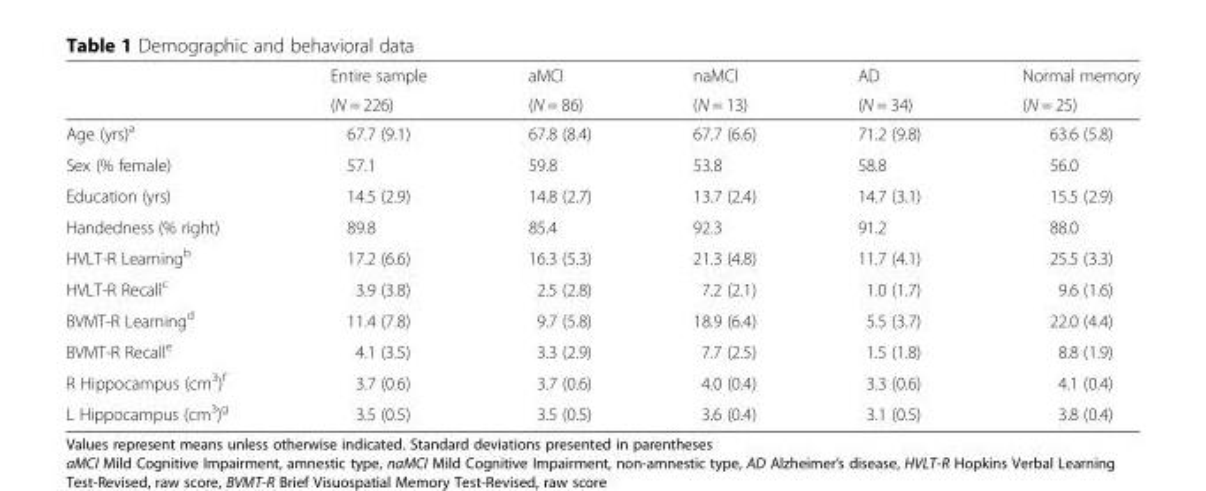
<table><thead><tr><td rowspan="2"></td><td rowspan="2">Entire sample (N = 226)</td><td rowspan="2">aMCI (N = 86)</td><td rowspan="2">naMCI (N = 13)</td><td rowspan="2">AD (N = 34)</td><td rowspan="2">Normal memory (N = 25)</td></tr><tr></tr></thead><tbody><tr><td>Age (yrs)<sup>a</sup></td><td>67.7 (9.1)</td><td>67.8 (8.4)</td><td>67.7 (6.6)</td><td>71.2 (9.8)</td><td>63.6 (5.8)</td></tr><tr><td>Sex (% female)</td><td>57.1</td><td>59.8</td><td>53.8</td><td>58.8</td><td>56.0</td></tr><tr><td>Education (yrs)</td><td>14.5 (2.9)</td><td>14.8 (2.7)</td><td>13.7 (2.4)</td><td>14.7 (3.1)</td><td>15.5 (2.9)</td></tr><tr><td>Handedness (% right)</td><td>89.8</td><td>85.4</td><td>92.3</td><td>91.2</td><td>88.0</td></tr><tr><td>HVLT-R Learning<sup>b</sup></td><td>17.2 (6.6)</td><td>16.3 (5.3)</td><td>21.3 (4.8)</td><td>11.7 (4.1)</td><td>25.5 (3.3)</td></tr><tr><td>HVLT-R Recall<sup>c</sup></td><td>3.9 (3.8)</td><td>2.5 (2.8)</td><td>7.2 (2.1)</td><td>1.0 (1.7)</td><td>9.6 (1.6)</td></tr><tr><td>BVMT-R Learning<sup>d</sup></td><td>11.4 (7.8)</td><td>9.7 (5.8)</td><td>18.9 (6.4)</td><td>5.5 (3.7)</td><td>22.0 (4.4)</td></tr><tr><td>BVMT-R Recall<sup>e</sup></td><td>4.1 (3.5)</td><td>3.3 (2.9)</td><td>7.7 (2.5)</td><td>1.5 (1.8)</td><td>8.8 (1.9)</td></tr><tr><td>R Hippocampus (cm<sup>3</sup>)<sup>f</sup></td><td>3.7 (0.6)</td><td>3.7 (0.6)</td><td>4.0 (0.4)</td><td>3.3 (0.6)</td><td>4.1 (0.4)</td></tr><tr><td>L Hippocampus (cm<sup>3</sup>)<sup>g</sup></td><td>3.5 (0.5)</td><td>3.5 (0.5)</td><td>3.6 (0.4)</td><td>3.1 (0.5)</td><td>3.8 (0.4)</td></tr></tbody></table>